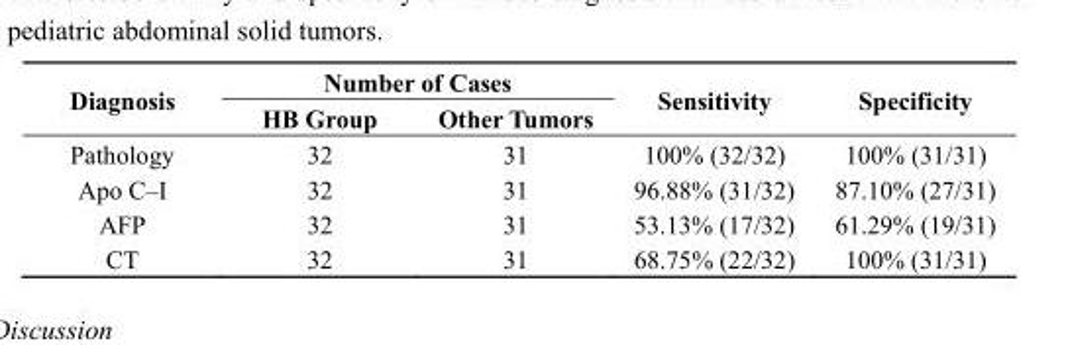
<table><thead><tr><td rowspan="2">Diagnosis</td><td colspan="2">Number of Cases</td><td rowspan="2">Sensitivity</td><td rowspan="2">Specificity</td></tr><tr><td>HB Group</td><td>Other Tumors</td></tr></thead><tbody><tr><td>Pathology</td><td>32</td><td>31</td><td>100% (32/32)</td><td>100% (31/31)</td></tr><tr><td>Apo C–I</td><td>32</td><td>31</td><td>96.88% (31/32)</td><td>87.10% (27/31)</td></tr><tr><td>AFP</td><td>32</td><td>31</td><td>53.13% (17/32)</td><td>61.29% (19/31)</td></tr><tr><td>CT</td><td>32</td><td>31</td><td>68.75% (22/32)</td><td>100% (31/31)</td></tr></tbody></table>